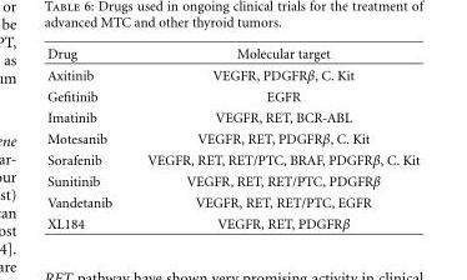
<table><thead><tr><td>Drug</td><td>Molecular target</td></tr></thead><tbody><tr><td>Axitinib</td><td>VEGFR, PDGFRβ, C. Kit</td></tr><tr><td>Gefitinib</td><td>EGFR</td></tr><tr><td>Imatinib</td><td>VEGFR, RET, BCR-ABL</td></tr><tr><td>Motesanib</td><td>VEGFR, RET, PDGFRβ, C. Kit</td></tr><tr><td>Sorafenib</td><td>VEGFR, RET, RET/PTC, BRAF, PDGFRβ, C. Kit</td></tr><tr><td>Sunitinib</td><td>VEGFR, RET, RET/PTC, PDGFRβ</td></tr><tr><td>Vandetanib</td><td>VEGFR, RET, RET/PTC, EGFR</td></tr><tr><td>XL184</td><td>VEGFR, RET, PDGFRβ</td></tr></tbody></table>